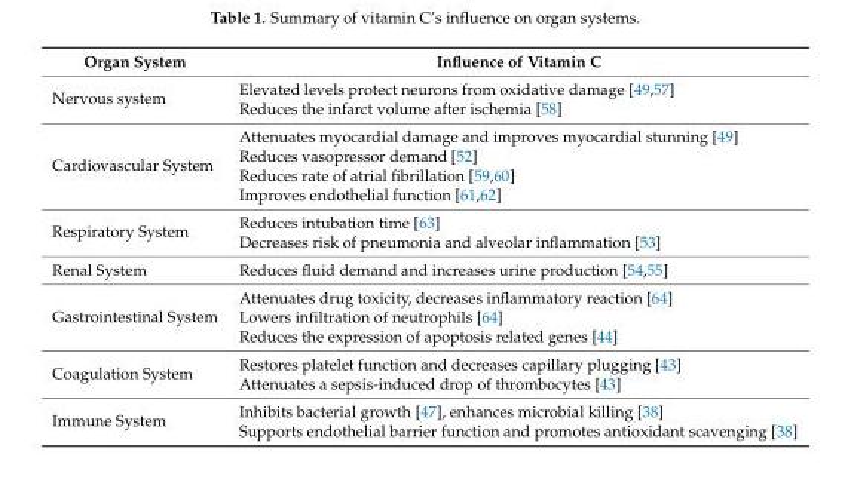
<table><thead><tr><td>Organ System</td><td>Influence of Vitamin C</td></tr></thead><tbody><tr><td rowspan="2">Nervous system</td><td>Elevated levels protect neurons from oxidative damage [49,57]</td></tr><tr><td>Reduces the infarct volume after ischemia [58]</td></tr><tr><td rowspan="4">Cardiovascular System</td><td>Attenuates myocardial damage and improves myocardial stunning [49]</td></tr><tr><td>Reduces vasopressor demand [52]</td></tr><tr><td>Reduces rate of atrial fibrillation [59,60]</td></tr><tr><td>Improves endothelial function [61,62]</td></tr><tr><td rowspan="2">Respiratory System</td><td>Reduces intubation time [63]</td></tr><tr><td>Decreases risk of pneumonia and alveolar inflammation [53]</td></tr><tr><td>Renal System</td><td>Reduces fluid demand and increases urine production [54,55]</td></tr><tr><td rowspan="3">Gastrointestinal System</td><td>Attenuates drug toxicity, decreases inflammatory reaction [64]</td></tr><tr><td>Lowers infiltration of neutrophils [64]</td></tr><tr><td>Reduces the expression of apoptosis related genes [44]</td></tr><tr><td rowspan="2">Coagulation System</td><td>Restores platelet function and decreases capillary plugging [43]</td></tr><tr><td>Attenuates a sepsis-induced drop of thrombocytes [43]</td></tr><tr><td rowspan="2">Immune System</td><td>Inhibits bacterial growth [47], enhances microbial killing [38]</td></tr><tr><td>Supports endothelial barrier function and promotes antioxidant scavenging [38]</td></tr></tbody></table>